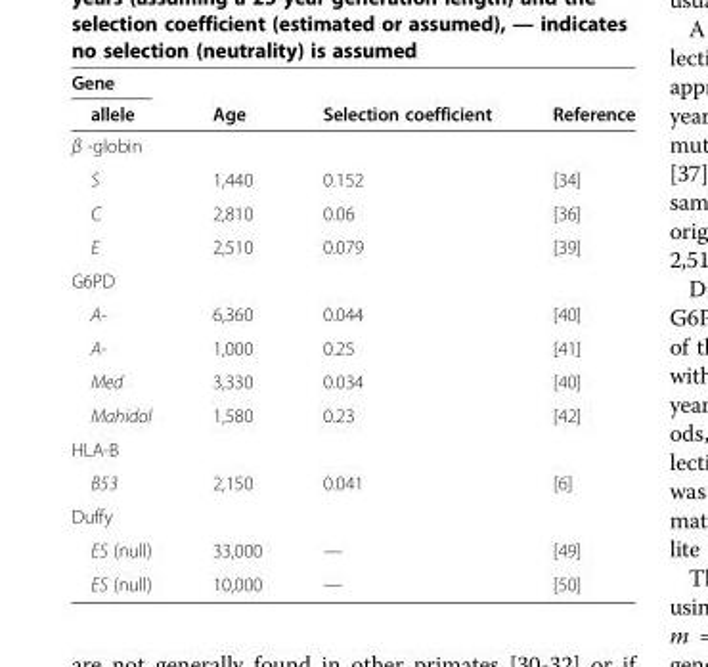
<table><thead><tr><td rowspan="2">Gene allele</td><td rowspan="2">Age</td><td rowspan="2">Selection coefficient</td><td rowspan="2">Reference</td></tr><tr></tr></thead><tbody><tr><td colspan="4">β -globin</td></tr><tr><td>S</td><td>1,440</td><td>0.152</td><td>[34]</td></tr><tr><td>C</td><td>2,810</td><td>0.06</td><td>[36]</td></tr><tr><td>E</td><td>2,510</td><td>0.079</td><td>[39]</td></tr><tr><td colspan="4">G6PD</td></tr><tr><td>A-</td><td>6,360</td><td>0.044</td><td>[40]</td></tr><tr><td>A-</td><td>1,000</td><td>0.25</td><td>[41]</td></tr><tr><td>Med</td><td>3,330</td><td>0.034</td><td>[40]</td></tr><tr><td>Mahidol</td><td>1,580</td><td>0.23</td><td>[42]</td></tr><tr><td colspan="4">HLA-B</td></tr><tr><td>B53</td><td>2,150</td><td>0.041</td><td>[6]</td></tr><tr><td colspan="4">Duffy</td></tr><tr><td>ES (null)</td><td>33,000</td><td>—</td><td>[49]</td></tr><tr><td>ES (null)</td><td>10,000</td><td>—</td><td>[50]</td></tr></tbody></table>